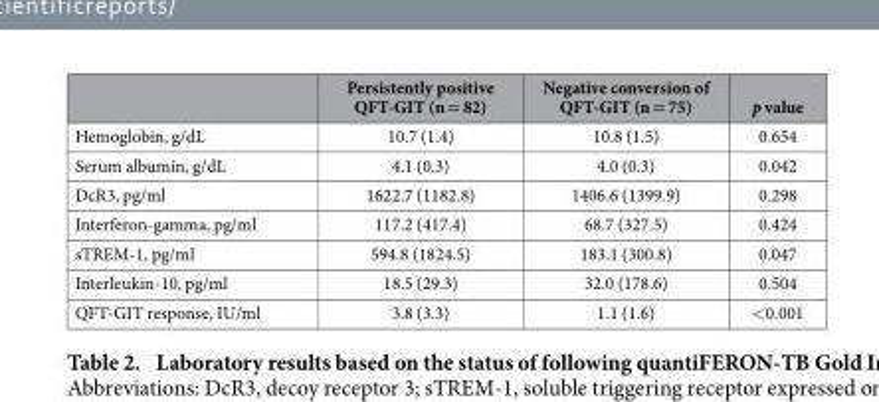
<table><thead><tr><td></td><td>Persistently positive QFT-GIT (n = 82)</td><td>Negative conversion of QFT-GIT (n = 75)</td><td>p value</td></tr></thead><tbody><tr><td>Hemoglobin, g/dL</td><td>10.7 (1.4)</td><td>10.8 (1.5)</td><td>0.654</td></tr><tr><td>Serum albumin, g/dL</td><td>4.1 (0.3)</td><td>4.0 (0.3)</td><td>0.042</td></tr><tr><td>DcR3, pg/ml</td><td>1622.7 (1182.8)</td><td>1406.6 (1399.9)</td><td>0.298</td></tr><tr><td>Interferon-gamma, pg/ml</td><td>117.2 (417.4)</td><td>68.7 (327.5)</td><td>0.424</td></tr><tr><td>sTREM-1, pg/ml</td><td>594.8 (1824.5)</td><td>183.1 (300.8)</td><td>0.047</td></tr><tr><td>Interleukin-10, pg/ml</td><td>18.5 (29.3)</td><td>32.0 (178.6)</td><td>0.504</td></tr><tr><td>QFT-GIT response, IU/ml</td><td>3.8 (3.3)</td><td>1.1 (1.6)</td><td>&lt; 0.001</td></tr></tbody></table>